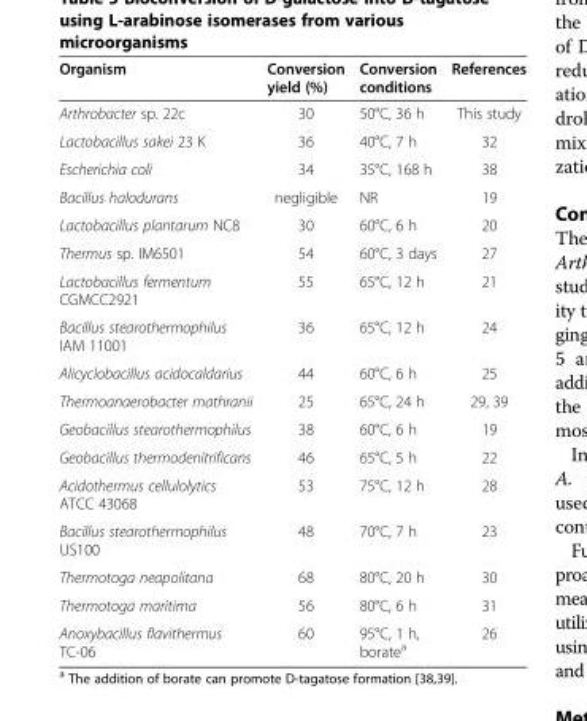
<table><thead><tr><td>Organism</td><td>Conversion yield (%)</td><td>Conversion conditions</td><td>References</td></tr></thead><tbody><tr><td>Arthrobacter sp. 22c</td><td>30</td><td>50°C, 36 h</td><td>This study</td></tr><tr><td>Lactobacillus sakei 23 K</td><td>36</td><td>40°C, 7 h</td><td>32</td></tr><tr><td>Escherichia coli</td><td>34</td><td>35°C, 168 h</td><td>38</td></tr><tr><td>Bacillus halodurans</td><td>negligible</td><td>NR</td><td>19</td></tr><tr><td>Lactobacillus plantarum NC8</td><td>30</td><td>60°C, 6 h</td><td>20</td></tr><tr><td>Thermus sp. IM6501</td><td>54</td><td>60°C, 3 days</td><td>27</td></tr><tr><td>Lactobacillus fermentum CGMCC2921</td><td>55</td><td>65°C, 12 h</td><td>21</td></tr><tr><td>Bacillus stearothermophilus IAM 11001</td><td>36</td><td>65°C, 12 h</td><td>24</td></tr><tr><td>Alicyclobacillus acidocaldarius</td><td>44</td><td>60°C, 6 h</td><td>25</td></tr><tr><td>Thermoanaerobacter mathranii</td><td>25</td><td>65°C, 24 h</td><td>29, 39</td></tr><tr><td>Geobacillus stearothermophilus</td><td>38</td><td>60°C, 6 h</td><td>19</td></tr><tr><td>Geobacillus thermodenitrificans</td><td>46</td><td>65°C, 5 h</td><td>22</td></tr><tr><td>Acidothermus cellulolytics ATCC 43068</td><td>53</td><td>75°C, 12 h</td><td>28</td></tr><tr><td>Bacillus stearothermophilus US100</td><td>48</td><td>70°C, 7 h</td><td>23</td></tr><tr><td>Thermotoga neapolitana</td><td>68</td><td>80°C, 20 h</td><td>30</td></tr><tr><td>Thermotoga maritima</td><td>56</td><td>80°C, 6 h</td><td>31</td></tr><tr><td>Anoxybacillus flavithermus TC-06</td><td>60</td><td>95°C, 1 h, borate<sup>a</sup></td><td>26</td></tr></tbody></table>